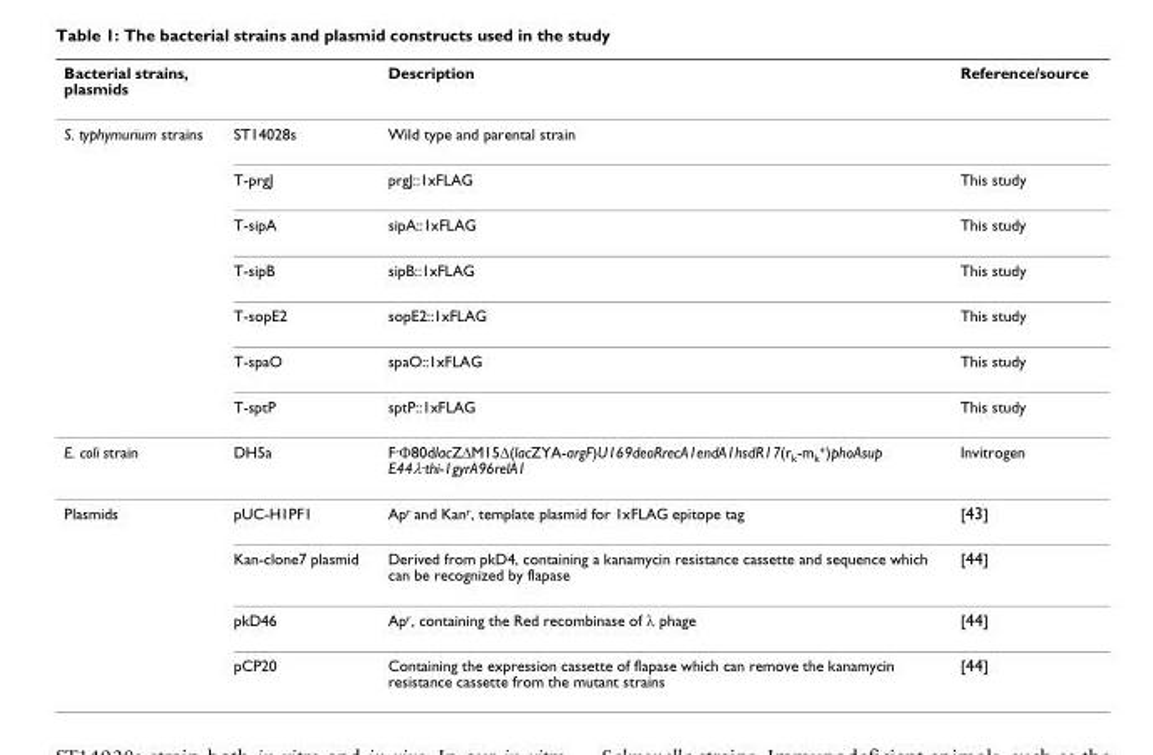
<table><thead><tr><td>Bacterial strains, plasmids</td><td></td><td>Description</td><td>Reference/source</td></tr></thead><tbody><tr><td rowspan="7">S. typhymurium strains</td><td>ST14028s</td><td>Wild type and parental strain</td><td></td></tr><tr><td>T-prgJ</td><td>prgJ::1xFLAG</td><td>This study</td></tr><tr><td>T-sipA</td><td>sipA::1xFLAG</td><td>This study</td></tr><tr><td>T-sipB</td><td>sipB::1xFLAG</td><td>This study</td></tr><tr><td>T-sopE2</td><td>sopE2::1xFLAG</td><td>This study</td></tr><tr><td>T-spaO</td><td>spaO::1xFLAG</td><td>This study</td></tr><tr><td>T-sptP</td><td>sptP::1xFLAG</td><td>This study</td></tr><tr><td>E. coli strain</td><td>DH5a</td><td>F<sup>-</sup>Φ80dlacZΔM15Δ(lacZYA-argF)U169deoRrecA1endA1hsdR17(r<sub>k</sub>-m<sub>k</sub><sup>+</sup>)phoAsup E44λ<sup>-</sup>thi-1gyrA96relA1</td><td>Invitrogen</td></tr><tr><td rowspan="4">Plasmids</td><td>pUC-H1PF1</td><td>Ap<sup>r</sup> and Kan<sup>r</sup>, template plasmid for 1xFLAG epitope tag</td><td>[43]</td></tr><tr><td>Kan-clone7 plasmid</td><td>Derived from pkD4, containing a kanamycin resistance cassette and sequence which can be recognized by flapase</td><td>[44]</td></tr><tr><td>pkD46</td><td>Ap<sup>r</sup>, containing the Red recombinase of λ phage</td><td>[44]</td></tr><tr><td>pCP20</td><td>Containing the expression cassette of flapase which can remove the kanamycin resistance cassette from the mutant strains</td><td>[44]</td></tr></tbody></table>